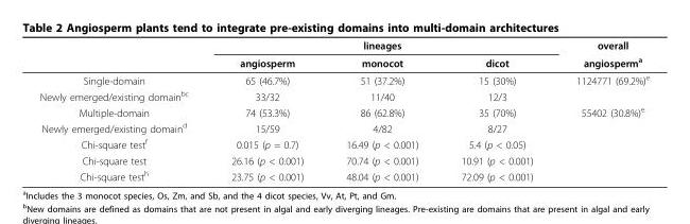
<table><thead><tr><td rowspan="2"></td><td rowspan="2">angiosperm</td><td rowspan="2">lineages monocot</td><td rowspan="2">dicot</td><td rowspan="2">overall angiosperm<sup>a</sup></td></tr><tr></tr></thead><tbody><tr><td>Single-domain</td><td>65 (46.7%)</td><td>51 (37.2%)</td><td>15 (30%)</td><td>1124771 (69.2%)<sup>e</sup></td></tr><tr><td>Newly emerged/existing domain<sup>bc</sup></td><td>33/32</td><td>11/40</td><td>12/3</td><td></td></tr><tr><td>Multiple-domain</td><td>74 (53.3%)</td><td>86 (62.8%)</td><td>35 (70%)</td><td>55402 (30.8%)<sup>e</sup></td></tr><tr><td>Newly emerged/existing domain<sup>d</sup></td><td>15/59</td><td>4/82</td><td>8/27</td><td></td></tr><tr><td>Chi-square test<sup>f</sup></td><td>0.015 (p = 0.7)</td><td>16.49 (p &lt; 0.001)</td><td>5.4 (p &lt; 0.05)</td><td></td></tr><tr><td>Chi-square test</td><td>26.16 (p &lt; 0.001)</td><td>70.74 (p &lt; 0.001)</td><td>10.91 (p &lt; 0.001)</td><td></td></tr><tr><td>Chi-square test<sup>h</sup></td><td>23.75 (p &lt; 0.001)</td><td>48.04 (p &lt; 0.001)</td><td>72.09 (p &lt; 0.001)</td><td></td></tr></tbody></table>